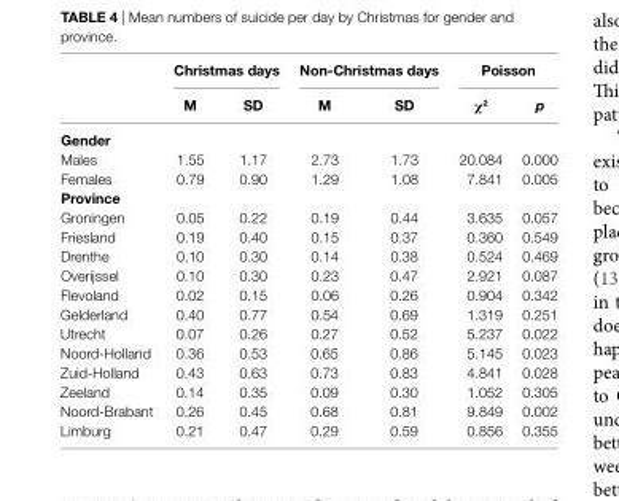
<table><thead><tr><td rowspan="2"></td><td colspan="2">christmas days</td><td colspan="2">non-christmas days</td><td colspan="2">Poisson</td></tr><tr><td>M</td><td>sD</td><td>M</td><td>sD</td><td>χ<sup>2</sup></td><td>p</td></tr></thead><tbody><tr><td colspan="7">gender</td></tr><tr><td>Males</td><td>1.55</td><td>1.17</td><td>2.73</td><td>1.73</td><td>20.084</td><td>0.000</td></tr><tr><td>Females</td><td>0.79</td><td>0.90</td><td>1.29</td><td>1.08</td><td>7.841</td><td>0.005</td></tr><tr><td colspan="7">Province</td></tr><tr><td>Groningen</td><td>0.05</td><td>0.22</td><td>0.19</td><td>0.44</td><td>3.635</td><td>0.057</td></tr><tr><td>Friesland</td><td>0.19</td><td>0.40</td><td>0.15</td><td>0.37</td><td>0.360</td><td>0.549</td></tr><tr><td>Drenthe</td><td>0.10</td><td>0.30</td><td>0.14</td><td>0.38</td><td>0.524</td><td>0.469</td></tr><tr><td>Overijssel</td><td>0.10</td><td>0.30</td><td>0.23</td><td>0.47</td><td>2.921</td><td>0.087</td></tr><tr><td>Flevoland</td><td>0.02</td><td>0.15</td><td>0.06</td><td>0.26</td><td>0.904</td><td>0.342</td></tr><tr><td>Gelderland</td><td>0.40</td><td>0.77</td><td>0.54</td><td>0.69</td><td>1.319</td><td>0.251</td></tr><tr><td>Utrecht</td><td>0.07</td><td>0.26</td><td>0.27</td><td>0.52</td><td>5.237</td><td>0.022</td></tr><tr><td>Noord-Holland</td><td>0.36</td><td>0.53</td><td>0.65</td><td>0.86</td><td>5.145</td><td>0.023</td></tr><tr><td>Zuid-Holland</td><td>0.43</td><td>0.63</td><td>0.73</td><td>0.83</td><td>4.841</td><td>0.028</td></tr><tr><td>Zeeland</td><td>0.14</td><td>0.35</td><td>0.09</td><td>0.30</td><td>1.052</td><td>0.305</td></tr><tr><td>Noord-Brabant</td><td>0.26</td><td>0.45</td><td>0.68</td><td>0.81</td><td>9.849</td><td>0.002</td></tr><tr><td>Limburg</td><td>0.21</td><td>0.47</td><td>0.29</td><td>0.59</td><td>0.856</td><td>0.355</td></tr></tbody></table>